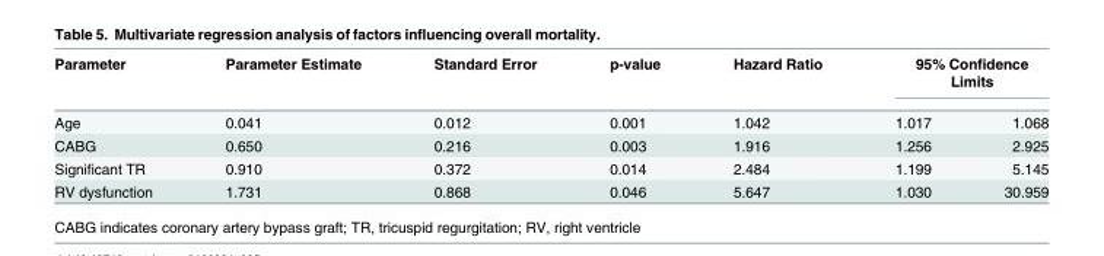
<table><thead><tr><td rowspan="2">Parameter Age</td><td rowspan="2">Parameter Estimate 0.041</td><td rowspan="2">Standard Error 0.012</td><td rowspan="2">p-value 0.001</td><td rowspan="2">Hazard Ratio 1.042</td><td colspan="2">95% Confidence Limits</td></tr><tr><td>1.017</td><td>1.068</td></tr></thead><tbody><tr><td>CABG</td><td>0.650</td><td>0.216</td><td>0.003</td><td>1.916</td><td>1.256</td><td>2.925</td></tr><tr><td>Significant TR</td><td>0.910</td><td>0.372</td><td>0.014</td><td>2.484</td><td>1.199</td><td>5.145</td></tr><tr><td>RV dysfunction</td><td>1.731</td><td>0.868</td><td>0.046</td><td>5.647</td><td>1.030</td><td>30.959</td></tr></tbody></table>